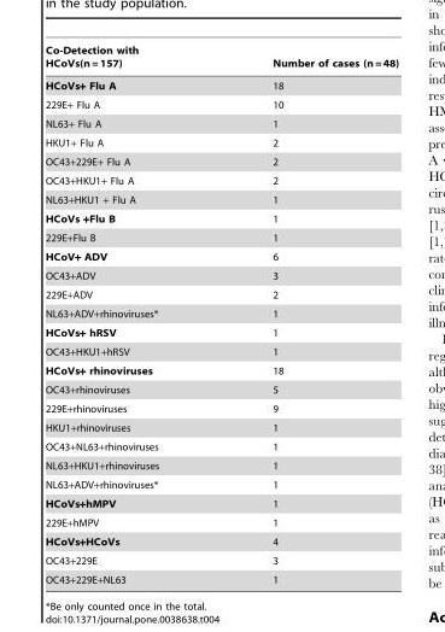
<table><thead><tr><td>Co-Detection with HCoVs(n = 157)</td><td>Number of cases (n = 48)</td></tr></thead><tbody><tr><td>HCoVs+ Flu A</td><td>18</td></tr><tr><td>229E+ Flu A</td><td>10</td></tr><tr><td>NL63+ Flu A</td><td>1</td></tr><tr><td>HKU1+ Flu A</td><td>2</td></tr><tr><td>OC43+229E+ Flu A</td><td>2</td></tr><tr><td>OC43+HKU1+ Flu A</td><td>2</td></tr><tr><td>NL63+HKU1 + Flu A</td><td>1</td></tr><tr><td>HCoVs +Flu B</td><td>1</td></tr><tr><td>229E+Flu B</td><td>1</td></tr><tr><td>HCoV+ ADV</td><td>6</td></tr><tr><td>OC43+ADV</td><td>3</td></tr><tr><td>229E+ADV</td><td>2</td></tr><tr><td>NL63+ADV+rhinoviruses*</td><td>1</td></tr><tr><td>HCoVs+ hRSV</td><td>1</td></tr><tr><td>OC43+HKU1+hRSV</td><td>1</td></tr><tr><td>HCoVs+ rhinoviruses</td><td>18</td></tr><tr><td>OC43+rhinoviruses</td><td>5</td></tr><tr><td>229E+rhinoviruses</td><td>9</td></tr><tr><td>HKU1+rhinoviruses</td><td>1</td></tr><tr><td>OC43+NL63+rhinoviruses</td><td>1</td></tr><tr><td>NL63+HKU1+rhinoviruses</td><td>1</td></tr><tr><td>NL63+ADV+rhinoviruses*</td><td>1</td></tr><tr><td>HCoVs+hMPV</td><td>1</td></tr><tr><td>229E+hMPV</td><td>1</td></tr><tr><td>HCoVs+HCoVs</td><td>4</td></tr><tr><td>OC43+229E</td><td>3</td></tr><tr><td>OC43+229E+NL63</td><td>1</td></tr></tbody></table>